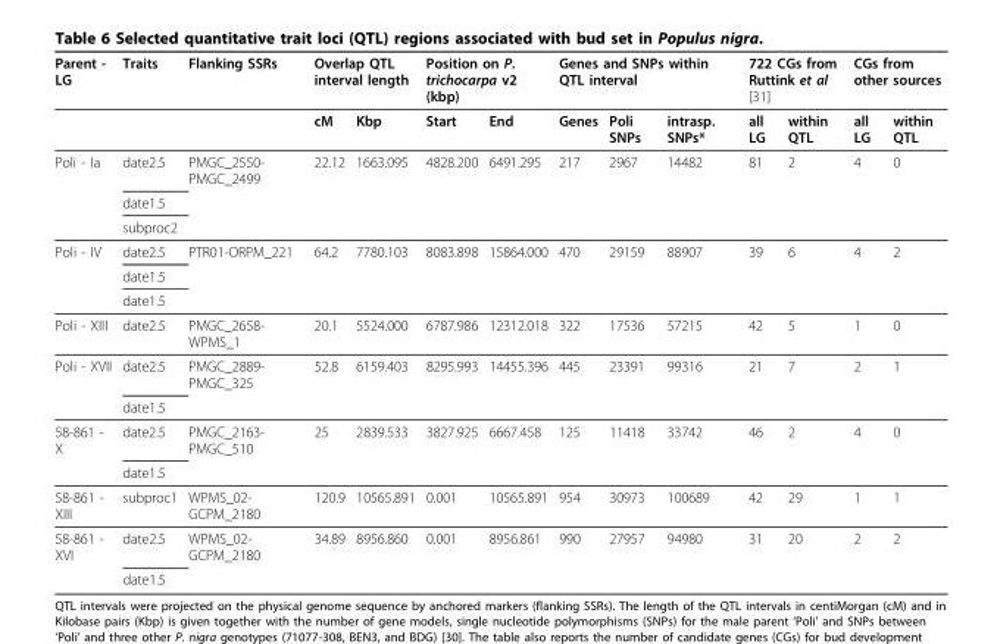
<table><thead><tr><td rowspan="2">Parent - LG</td><td rowspan="2">Traits</td><td rowspan="2">Flanking SSRs</td><td colspan="2">Overlap QTL interval length</td><td colspan="2">Position on P. trichocarpa v2 (kbp)</td><td colspan="3">Genes and SNPs within QTL interval</td><td colspan="2">722 CGs from Ruttink et al [31]</td><td colspan="2">CGs from other sources</td></tr><tr><td>cM</td><td>Kbp</td><td>Start</td><td>End</td><td>Genes</td><td>Poli SNPs</td><td>intrasp. SNPs*</td><td>all LG</td><td>within QTL</td><td>all LG</td><td>within QTL</td></tr></thead><tbody><tr><td rowspan="3">Poli - Ia</td><td>date2.5</td><td>PMGC_2550- PMGC_2499</td><td>22.12</td><td>1663.095</td><td>4828.200</td><td>6491.295</td><td>217</td><td>2967</td><td>14482</td><td>81</td><td>2</td><td>4</td><td>0</td></tr><tr><td>date1.5</td><td></td><td></td><td></td><td></td><td></td><td></td><td></td><td></td><td></td><td></td><td></td><td></td></tr><tr><td>subproc2</td><td></td><td></td><td></td><td></td><td></td><td></td><td></td><td></td><td></td><td></td><td></td><td></td></tr><tr><td rowspan="3">Poli - IV</td><td>date2.5</td><td>PTR01-ORPM_221</td><td>64.2</td><td>7780.103</td><td>8083.898</td><td>15864.000</td><td>470</td><td>29159</td><td>88907</td><td>39</td><td>6</td><td>4</td><td>2</td></tr><tr><td>date1.5</td><td></td><td></td><td></td><td></td><td></td><td></td><td></td><td></td><td></td><td></td><td></td><td></td></tr><tr><td>date1.5</td><td></td><td></td><td></td><td></td><td></td><td></td><td></td><td></td><td></td><td></td><td></td><td></td></tr><tr><td>Poli - XIII</td><td>date2.5</td><td>PMGC_2658- WPMS_1</td><td>20.1</td><td>5524.000</td><td>6787.986</td><td>12312.018</td><td>322</td><td>17536</td><td>57215</td><td>42</td><td>5</td><td>1</td><td>0</td></tr><tr><td rowspan="2">Poli - XVII</td><td>date2.5</td><td>PMGC_2889- PMGC_325</td><td>52.8</td><td>6159.403</td><td>8295.993</td><td>14455.396</td><td>445</td><td>23391</td><td>99316</td><td>21</td><td>7</td><td>2</td><td>1</td></tr><tr><td>date1.5</td><td></td><td></td><td></td><td></td><td></td><td></td><td></td><td></td><td></td><td></td><td></td><td></td></tr><tr><td rowspan="2">58-861 - X</td><td>date2.5</td><td>PMGC_2163- PMGC_510</td><td>25</td><td>2839.533</td><td>3827.925</td><td>6667.458</td><td>125</td><td>11418</td><td>33742</td><td>46</td><td>2</td><td>4</td><td>0</td></tr><tr><td>date1.5</td><td></td><td></td><td></td><td></td><td></td><td></td><td></td><td></td><td></td><td></td><td></td><td></td></tr><tr><td>58-861 - XIII</td><td>subproc1</td><td>WPMS_02- GCPM_2180</td><td>120.9</td><td>10565.891</td><td>0.001</td><td>10565.891</td><td>954</td><td>30973</td><td>100689</td><td>42</td><td>29</td><td>1</td><td>1</td></tr><tr><td rowspan="2">58-861 - XVI</td><td>date2.5</td><td>WPMS_02- GCPM_2180</td><td>34.89</td><td>8956.860</td><td>0.001</td><td>8956.861</td><td>990</td><td>27957</td><td>94980</td><td>31</td><td>20</td><td>2</td><td>2</td></tr><tr><td>date1.5</td><td></td><td></td><td></td><td></td><td></td><td></td><td></td><td></td><td></td><td></td><td></td><td></td></tr></tbody></table>